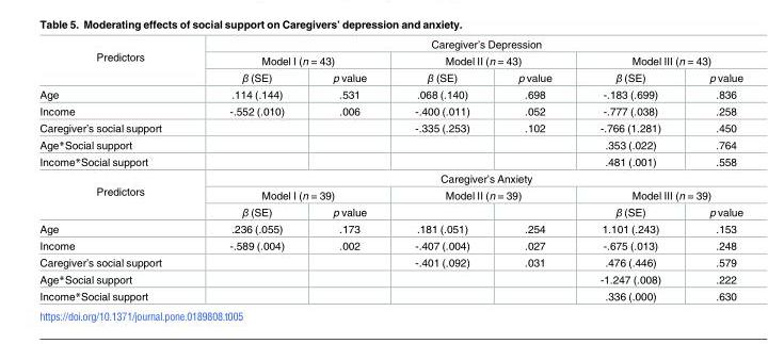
<table><tbody><tr><td rowspan="3">Predictors</td><td colspan="6">Caregiver’s Depression</td></tr><tr><td colspan="2">Model I (n = 43)</td><td colspan="2">Model II (n = 43)</td><td colspan="2">Model III (n = 43)</td></tr><tr><td>β (SE)</td><td>p value</td><td>β (SE)</td><td>p value</td><td>β (SE)</td><td>p value</td></tr><tr><td>Age</td><td>.114 (.144)</td><td>.531</td><td>.068 (.140)</td><td>.698</td><td>-.183 (.699)</td><td>.836</td></tr><tr><td>Income</td><td>-.552 (.010)</td><td>.006</td><td>-.400 (.011)</td><td>.052</td><td>-.777 (.038)</td><td>.258</td></tr><tr><td>Caregiver’s social support</td><td></td><td></td><td>-.335 (.253)</td><td>.102</td><td>-.766 (1.281)</td><td>.450</td></tr><tr><td>Age*Social support</td><td></td><td></td><td></td><td></td><td>.353 (.022)</td><td>.764</td></tr><tr><td>Income*Social support</td><td></td><td></td><td></td><td></td><td>.481 (.001)</td><td>.558</td></tr><tr><td rowspan="3">Predictors</td><td colspan="6">Caregiver’s Anxiety</td></tr><tr><td colspan="2">Model I (n = 39)</td><td colspan="2">Model II (n = 39)</td><td colspan="2">Model III (n = 39)</td></tr><tr><td>β (SE)</td><td>p value</td><td></td><td></td><td>β (SE)</td><td>p value</td></tr><tr><td>Age</td><td>.236 (.055)</td><td>.173</td><td>.181 (.051)</td><td>.254</td><td>1.101 (.243)</td><td>.153</td></tr><tr><td>Income</td><td>-.589 (.004)</td><td>.002</td><td>-.407 (.004)</td><td>.027</td><td>-.675 (.013)</td><td>.248</td></tr><tr><td>Caregiver’s social support</td><td></td><td></td><td>-.401 (.092)</td><td>.031</td><td>.476 (.446)</td><td>.579</td></tr><tr><td>Age*Social support</td><td></td><td></td><td></td><td></td><td>-1.247 (.008)</td><td>.222</td></tr><tr><td>Income*Social support</td><td></td><td></td><td></td><td></td><td>.336 (.000)</td><td>.630</td></tr></tbody></table>